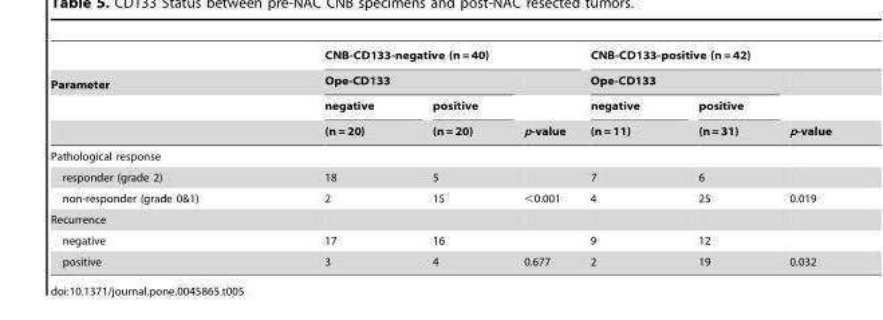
<table><thead><tr><td rowspan="4">Parameter</td><td colspan="3">CNB-CD133-negative (n = 40)</td><td colspan="3">CNB-CD133-positive (n = 42)</td></tr><tr><td colspan="2">Ope-CD133</td><td rowspan="3">p-value</td><td colspan="2">Ope-CD133</td><td rowspan="3">p-value</td></tr><tr><td rowspan="2">negative (n = 20)</td><td rowspan="2">positive (n = 20)</td><td rowspan="2">negative (n = 11)</td><td rowspan="2">positive (n = 31)</td></tr><tr></tr></thead><tbody><tr><td colspan="7">Pathological response</td></tr><tr><td>responder (grade 2)</td><td>18</td><td>5</td><td></td><td>7</td><td>6</td><td></td></tr><tr><td>non-responder (grade 0&amp;1)</td><td>2</td><td>15</td><td>&lt;0.001</td><td>4</td><td>25</td><td>0.019</td></tr><tr><td colspan="7">Recurrence</td></tr><tr><td>negative</td><td>17</td><td>16</td><td></td><td>9</td><td>12</td><td></td></tr><tr><td>positive</td><td>3</td><td>4</td><td>0.677</td><td>2</td><td>19</td><td>0.032</td></tr></tbody></table>